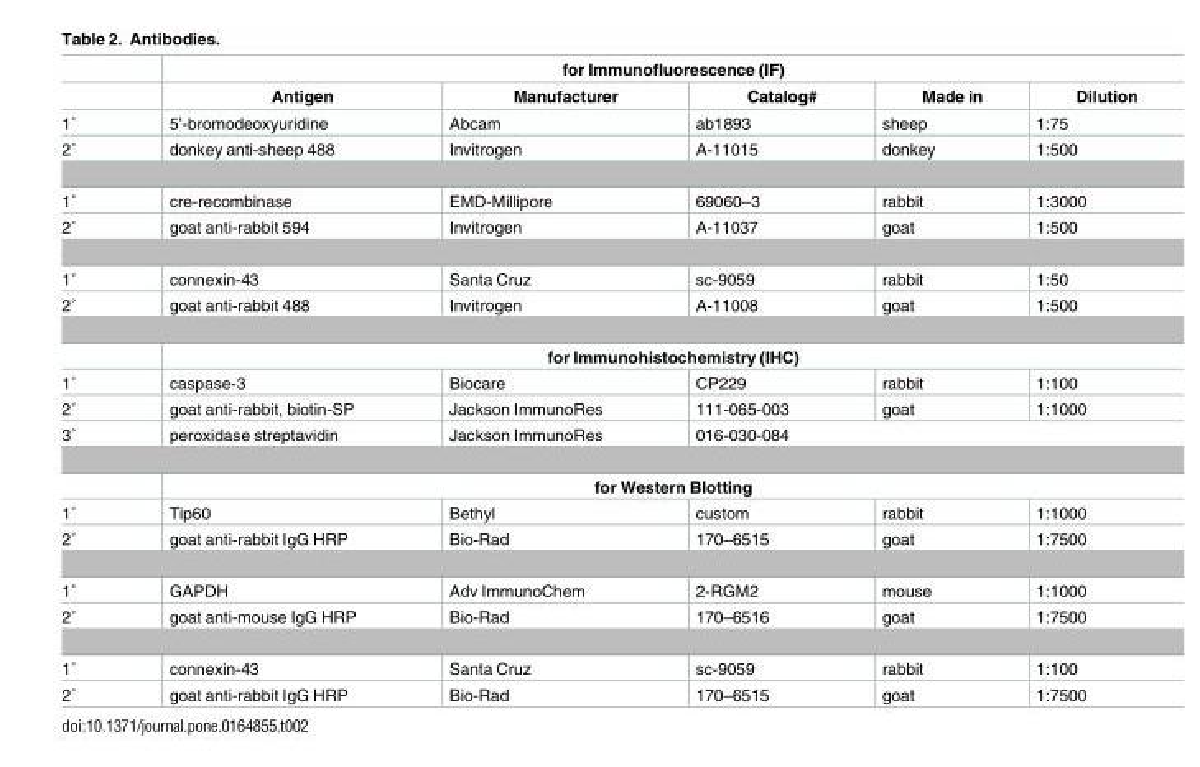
<table><thead><tr><td rowspan="2"></td><td colspan="5">for Immunofluorescence (IF)</td></tr><tr><td>Antigen</td><td>Manufacturer</td><td>Catalog#</td><td>Made in</td><td>Dilution</td></tr></thead><tbody><tr><td>1˚</td><td>5’-bromodeoxyuridine</td><td>Abcam</td><td>ab1893</td><td>sheep</td><td>1:75</td></tr><tr><td>2˚</td><td>donkey anti-sheep 488</td><td>Invitrogen</td><td>A-11015</td><td>donkey</td><td>1:500</td></tr><tr><td>1˚</td><td>cre-recombinase</td><td>EMD-Millipore</td><td>69060–3</td><td>rabbit</td><td>1:3000</td></tr><tr><td>2˚</td><td>goat anti-rabbit 594</td><td>Invitrogen</td><td>A-11037</td><td>goat</td><td>1:500</td></tr><tr><td>1˚</td><td>connexin-43</td><td>Santa Cruz</td><td>sc-9059</td><td>rabbit</td><td>1:50</td></tr><tr><td rowspan="2">2˚</td><td>goat anti-rabbit 488</td><td>Invitrogen</td><td>A-11008</td><td>goat</td><td>1:500</td></tr><tr><td colspan="5">for Immunohistochemistry (IHC)</td></tr><tr><td>1˚</td><td>caspase-3</td><td>Biocare</td><td>CP229</td><td>rabbit</td><td>1:100</td></tr><tr><td>2˚</td><td>goat anti-rabbit, biotin-SP</td><td>Jackson ImmunoRes</td><td>111-065-003</td><td>goat</td><td>1:1000</td></tr><tr><td rowspan="2">3˚</td><td>peroxidase streptavidin</td><td>Jackson ImmunoRes</td><td colspan="3">016-030-084</td></tr><tr><td colspan="5">for Western Blotting</td></tr><tr><td>1˚</td><td>Tip60</td><td>Bethyl</td><td>custom</td><td>rabbit</td><td>1:1000</td></tr><tr><td>2˚</td><td>goat anti-rabbit IgG HRP</td><td>Bio-Rad</td><td>170–6515</td><td>goat</td><td>1:7500</td></tr><tr><td>1˚</td><td>GAPDH</td><td>Adv ImmunoChem</td><td>2-RGM2</td><td>mouse</td><td>1:1000</td></tr><tr><td>2˚</td><td>goat anti-mouse IgG HRP</td><td>Bio-Rad</td><td>170–6516</td><td>goat</td><td>1:7500</td></tr><tr><td>1˚</td><td>connexin-43</td><td>Santa Cruz</td><td>sc-9059</td><td>rabbit</td><td>1:100</td></tr><tr><td>2˚</td><td>goat anti-rabbit IgG HRP</td><td>Bio-Rad</td><td>170–6515</td><td>goat</td><td>1:7500</td></tr></tbody></table>